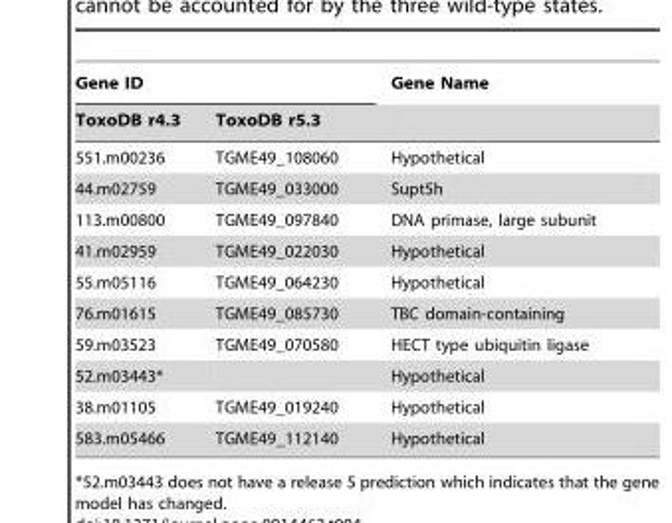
<table><thead><tr><td colspan="2">Gene ID</td><td rowspan="2">Gene Name</td></tr><tr><td>ToxoDB r4.3</td><td>ToxoDB r5.3</td></tr></thead><tbody><tr><td>551.m00236</td><td>TGME49_108060</td><td>Hypothetical</td></tr><tr><td>44.m02759</td><td>TGME49_033000</td><td>Supt5h</td></tr><tr><td>113.m00800</td><td>TGME49_097840</td><td>DNA primase, large subunit</td></tr><tr><td>41.m02959</td><td>TGME49_022030</td><td>Hypothetical</td></tr><tr><td>55.m05116</td><td>TGME49_064230</td><td>Hypothetical</td></tr><tr><td>76.m01615</td><td>TGME49_085730</td><td>TBC domain-containing</td></tr><tr><td>59.m03523</td><td>TGME49_070580</td><td>HECT type ubiquitin ligase</td></tr><tr><td>52.m03443*</td><td></td><td>Hypothetical</td></tr><tr><td>38.m01105</td><td>TGME49_019240</td><td>Hypothetical</td></tr><tr><td>583.m05466</td><td>TGME49_112140</td><td>Hypothetical</td></tr></tbody></table>